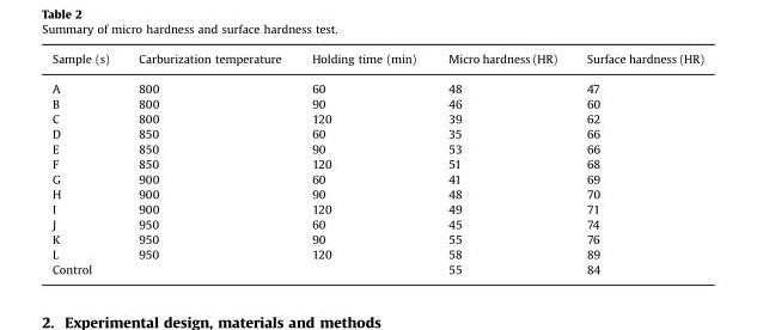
<table><thead><tr><td>Sample (s)</td><td>Carburization temperature</td><td>Holding time (min)</td><td>Micro hardness (HR)</td><td>Surface hardness (HR)</td></tr></thead><tbody><tr><td>A</td><td>800</td><td>60</td><td>48</td><td>47</td></tr><tr><td>B</td><td>800</td><td>90</td><td>46</td><td>60</td></tr><tr><td>C</td><td>800</td><td>120</td><td>39</td><td>62</td></tr><tr><td>D</td><td>850</td><td>60</td><td>35</td><td>66</td></tr><tr><td>E</td><td>850</td><td>90</td><td>53</td><td>66</td></tr><tr><td>F</td><td>850</td><td>120</td><td>51</td><td>68</td></tr><tr><td>G</td><td>900</td><td>60</td><td>41</td><td>69</td></tr><tr><td>H</td><td>900</td><td>90</td><td>48</td><td>70</td></tr><tr><td>I</td><td>900</td><td>120</td><td>49</td><td>71</td></tr><tr><td>J</td><td>950</td><td>60</td><td>45</td><td>74</td></tr><tr><td>K</td><td>950</td><td>90</td><td>55</td><td>76</td></tr><tr><td>L</td><td>950</td><td>120</td><td>58</td><td>89</td></tr><tr><td>Control</td><td></td><td></td><td>55</td><td>84</td></tr></tbody></table>